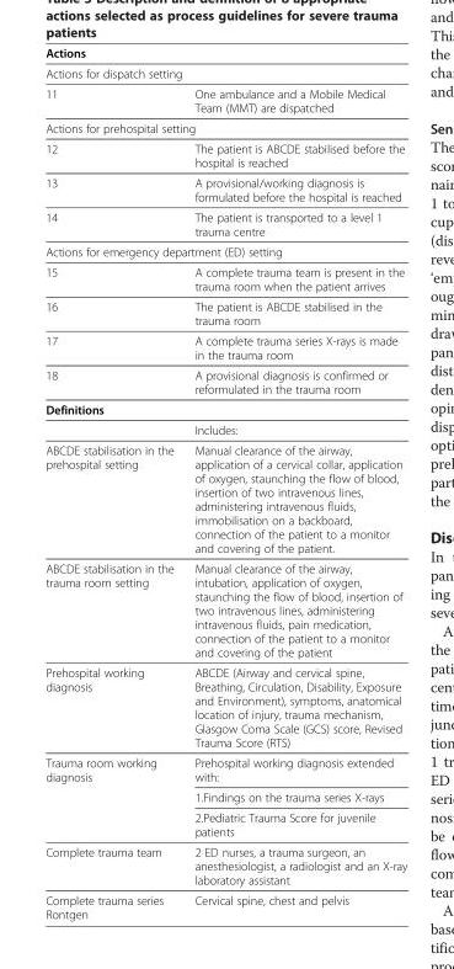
<table><thead><tr><td rowspan="2" colspan="2">Actions Actions for dispatch setting</td></tr><tr></tr><tr><td>11</td><td>One ambulance and a Mobile Medical Team (MMT) are dispatched</td></tr></thead><tbody><tr><td colspan="2">Actions for prehospital setting</td></tr><tr><td>12</td><td>The patient is ABCDE stabilised before the hospital is reached</td></tr><tr><td>13</td><td>A provisional/working diagnosis is formulated before the hospital is reached</td></tr><tr><td>14</td><td>The patient is transported to a level 1 trauma centre</td></tr><tr><td colspan="2">Actions for emergency department (ED) setting</td></tr><tr><td>15</td><td>A complete trauma team is present in the trauma room when the patient arrives</td></tr><tr><td>16</td><td>The patient is ABCDE stabilised in the trauma room</td></tr><tr><td>17</td><td>A complete trauma series X-rays is made in the trauma room</td></tr><tr><td>18</td><td>A provisional diagnosis is confirmed or reformulated in the trauma room</td></tr><tr><td colspan="2">Definitions</td></tr><tr><td></td><td>Includes:</td></tr><tr><td>ABCDE stabilisation in the prehospital setting</td><td>Manual clearance of the airway, application of a cervical collar, application of oxygen, staunching the flow of blood, insertion of two intravenous lines, administering intravenous fluids, immobilisation on a backboard, connection of the patient to a monitor and covering of the patient.</td></tr><tr><td>ABCDE stabilisation in the trauma room setting</td><td>Manual clearance of the airway, intubation, application of oxygen, staunching the flow of blood, insertion of two intravenous lines, administering intravenous fluids, pain medication, connection of the patient to a monitor and covering of the patient</td></tr><tr><td>Prehospital working diagnosis</td><td>ABCDE (Airway and cervical spine, Breathing, Circulation, Disability, Exposure and Environment), symptoms, anatomical location of injury, trauma mechanism, Glasgow Coma Scale (GCS) score, Revised Trauma Score (RTS)</td></tr><tr><td rowspan="3">Trauma room working diagnosis</td><td>Prehospital working diagnosis extended with:</td></tr><tr><td>1.Findings on the trauma series X-rays</td></tr><tr><td>2.Pediatric Trauma Score for juvenile patients</td></tr><tr><td>Complete trauma team</td><td>2 ED nurses, a trauma surgeon, an anesthesiologist, a radiologist and an X-ray laboratory assistant</td></tr><tr><td>Complete trauma series Rontgen</td><td>Cervical spine, chest and pelvis</td></tr></tbody></table>